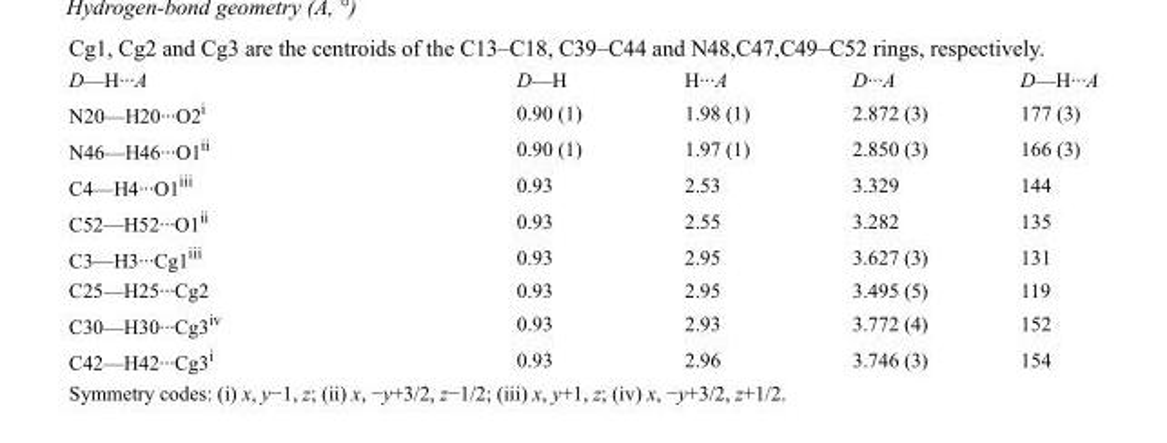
<table><tbody><tr><td>D—H···A</td><td>D—H</td><td>H···A</td><td>D···A</td><td>D—H···A</td></tr><tr><td>N20—H20···O2<sup>i</sup></td><td>0.90 (1)</td><td>1.98 (1)</td><td>2.872 (3)</td><td>177 (3)</td></tr><tr><td>N46—H46···O1<sup>ii</sup></td><td>0.90 (1)</td><td>1.97 (1)</td><td>2.850 (3)</td><td>166 (3)</td></tr><tr><td>C4—H4···O1<sup>iii</sup></td><td>0.93</td><td>2.53</td><td>3.329</td><td>144</td></tr><tr><td>C52—H52···O1<sup>ii</sup></td><td>0.93</td><td>2.55</td><td>3.282</td><td>135</td></tr><tr><td>C3—H3···Cg1<sup>iii</sup></td><td>0.93</td><td>2.95</td><td>3.627 (3)</td><td>131</td></tr><tr><td>C25—H25···Cg2</td><td>0.93</td><td>2.95</td><td>3.495 (5)</td><td>119</td></tr><tr><td>C30—H30···Cg3<sup>iv</sup></td><td>0.93</td><td>2.93</td><td>3.772 (4)</td><td>152</td></tr><tr><td>C42—H42···Cg3<sup>i</sup></td><td>0.93</td><td>2.96</td><td>3.746 (3)</td><td>154</td></tr></tbody></table>